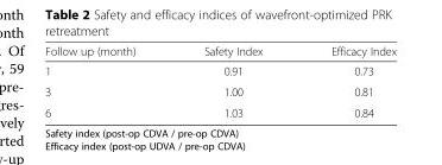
<table><thead><tr><td>Follow up (month)</td><td>Safety Index</td><td>Efficacy Index</td></tr></thead><tbody><tr><td>1</td><td>0.91</td><td>0.73</td></tr><tr><td>3</td><td>1.00</td><td>0.81</td></tr><tr><td>6</td><td>1.03</td><td>0.84</td></tr></tbody></table>